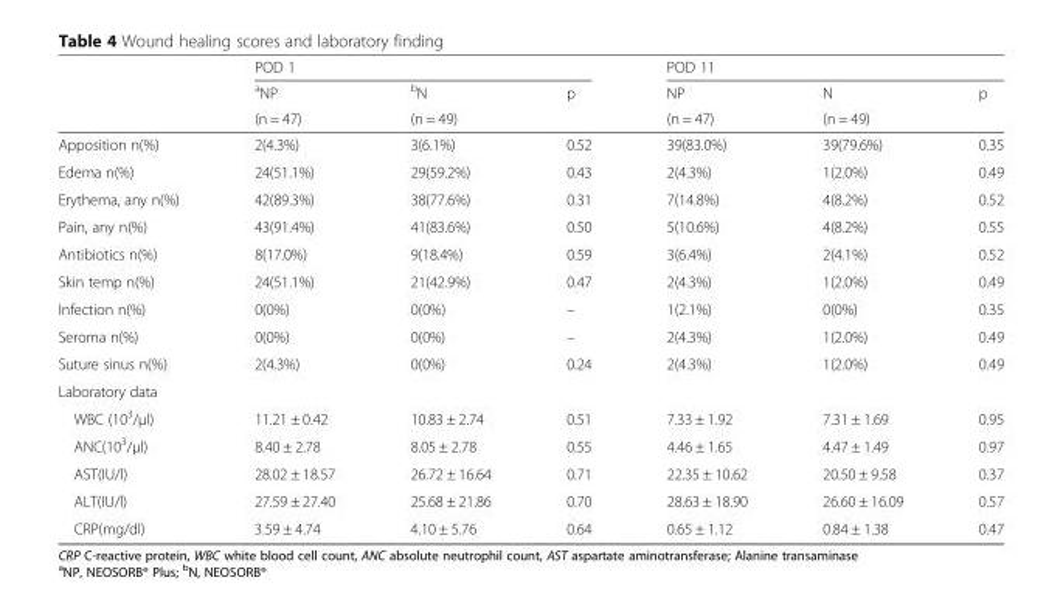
<table><thead><tr><td rowspan="3"></td><td colspan="3">POD 1</td><td colspan="3">POD 11</td></tr><tr><td rowspan="2"><sup>a</sup>NP (n = 47)</td><td rowspan="2"><sup>b</sup>N (n = 49)</td><td rowspan="2">p</td><td rowspan="2">NP (n = 47)</td><td rowspan="2">N (n = 49)</td><td rowspan="2">p</td></tr><tr></tr></thead><tbody><tr><td>Apposition n(%)</td><td>2(4.3%)</td><td>3(6.1%)</td><td>0.52</td><td>39(83.0%)</td><td>39(79.6%)</td><td>0.35</td></tr><tr><td>Edema n(%)</td><td>24(51.1%)</td><td>29(59.2%)</td><td>0.43</td><td>2(4.3%)</td><td>1(2.0%)</td><td>0.49</td></tr><tr><td>Erythema, any n(%)</td><td>42(89.3%)</td><td>38(77.6%)</td><td>0.31</td><td>7(14.8%)</td><td>4(8.2%)</td><td>0.52</td></tr><tr><td>Pain, any n(%)</td><td>43(91.4%)</td><td>41(83.6%)</td><td>0.50</td><td>5(10.6%)</td><td>4(8.2%)</td><td>0.55</td></tr><tr><td>Antibiotics n(%)</td><td>8(17.0%)</td><td>9(18.4%)</td><td>0.59</td><td>3(6.4%)</td><td>2(4.1%)</td><td>0.52</td></tr><tr><td>Skin temp n(%)</td><td>24(51.1%)</td><td>21(42.9%)</td><td>0.47</td><td>2(4.3%)</td><td>1(2.0%)</td><td>0.49</td></tr><tr><td>Infection n(%)</td><td>0(0%)</td><td>0(0%)</td><td>–</td><td>1(2.1%)</td><td>0(0%)</td><td>0.35</td></tr><tr><td>Seroma n(%)</td><td>0(0%)</td><td>0(0%)</td><td>–</td><td>2(4.3%)</td><td>1(2.0%)</td><td>0.49</td></tr><tr><td>Suture sinus n(%)</td><td>2(4.3%)</td><td>0(0%)</td><td>0.24</td><td>2(4.3%)</td><td>1(2.0%)</td><td>0.49</td></tr><tr><td colspan="7">Laboratory data</td></tr><tr><td>WBC (10<sup>3</sup>/μl)</td><td>11.21 ± 0.42</td><td>10.83 ± 2.74</td><td>0.51</td><td>7.33 ± 1.92</td><td>7.31 ± 1.69</td><td>0.95</td></tr><tr><td>ANC(10<sup>3</sup>/μl)</td><td>8.40 ± 2.78</td><td>8.05 ± 2.78</td><td>0.55</td><td>4.46 ± 1.65</td><td>4.47 ± 1.49</td><td>0.97</td></tr><tr><td>AST(IU/l)</td><td>28.02 ± 18.57</td><td>26.72 ± 16.64</td><td>0.71</td><td>22.35 ± 10.62</td><td>20.50 ± 9.58</td><td>0.37</td></tr><tr><td>ALT(IU/l)</td><td>27.59 ± 27.40</td><td>25.68 ± 21.86</td><td>0.70</td><td>28.63 ± 18.90</td><td>26.60 ± 16.09</td><td>0.57</td></tr><tr><td>CRP(mg/dl)</td><td>3.59 ± 4.74</td><td>4.10 ± 5.76</td><td>0.64</td><td>0.65 ± 1.12</td><td>0.84 ± 1.38</td><td>0.47</td></tr></tbody></table>